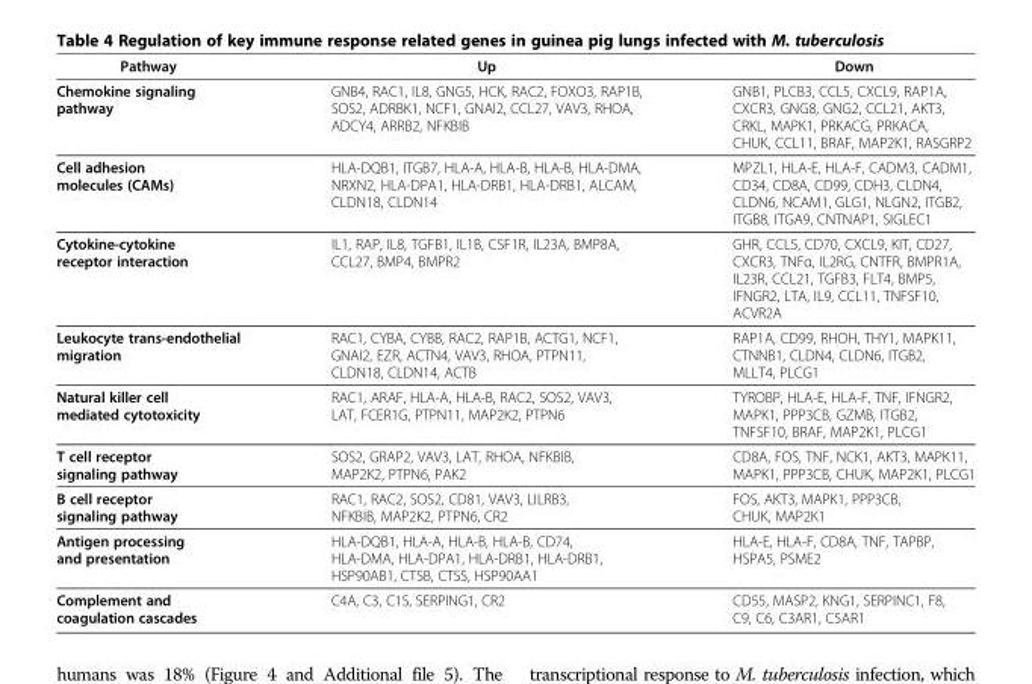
<table><thead><tr><td>Pathway</td><td>Up</td><td>Down</td></tr></thead><tbody><tr><td>Chemokine signaling pathway</td><td>GNB4, RAC1, IL8, GNG5, HCK, RAC2, FOXO3, RAP1B, SOS2, ADRBK1, NCF1, GNAI2, CCL27, VAV3, RHOA, ADCY4, ARRB2, NFKBIB</td><td>GNB1, PLCB3, CCL5, CXCL9, RAP1A, CXCR3, GNG8, GNG2, CCL21, AKT3, CRKL, MAPK1, PRKACG, PRKACA, CHUK, CCL11, BRAF, MAP2K1, RASGRP2</td></tr><tr><td>Cell adhesion molecules (CAMs)</td><td>HLA-DQB1, ITGB7, HLA-A, HLA-B, HLA-B, HLA-DMA, NRXN2, HLA-DPA1, HLA-DRB1, HLA-DRB1, ALCAM, CLDN18, CLDN14</td><td>MPZL1, HLA-E, HLA-F, CADM3, CADM1, CD34, CD8A, CD99, CDH3, CLDN4, CLDN6, NCAM1, GLG1, NLGN2, ITGB2, ITGB8, ITGA9, CNTNAP1, SIGLEC1</td></tr><tr><td>Cytokine-cytokine receptor interaction</td><td>IL1, RAP, IL8, TGFB1, IL1B, CSF1R, IL23A, BMP8A, CCL27, BMP4, BMPR2</td><td>GHR, CCL5, CD70, CXCL9, KIT, CD27, CXCR3, TNFα, IL2RG, CNTFR, BMPR1A, IL23R, CCL21, TGFB3, FLT4, BMP5, IFNGR2, LTA, IL9, CCL11, TNFSF10, ACVR2A</td></tr><tr><td>Leukocyte trans-endothelial migration</td><td>RAC1, CYBA, CYBB, RAC2, RAP1B, ACTG1, NCF1, GNAI2, EZR, ACTN4, VAV3, RHOA, PTPN11, CLDN18, CLDN14, ACTB</td><td>RAP1A, CD99, RHOH, THY1, MAPK11, CTNNB1, CLDN4, CLDN6, ITGB2, MLLT4, PLCG1</td></tr><tr><td>Natural killer cell mediated cytotoxicity</td><td>RAC1, ARAF, HLA-A, HLA-B, RAC2, SOS2, VAV3, LAT, FCER1G, PTPN11, MAP2K2, PTPN6</td><td>TYROBP, HLA-E, HLA-F, TNF, IFNGR2, MAPK1, PPP3CB, GZMB, ITGB2, TNFSF10, BRAF, MAP2K1, PLCG1</td></tr><tr><td>T cell receptor signaling pathway</td><td>SOS2, GRAP2, VAV3, LAT, RHOA, NFKBIB, MAP2K2, PTPN6, PAK2</td><td>CD8A, FOS, TNF, NCK1, AKT3, MAPK11, MAPK1, PPP3CB, CHUK, MAP2K1, PLCG1</td></tr><tr><td>B cell receptor signaling pathway</td><td>RAC1, RAC2, SOS2, CD81, VAV3, LILRB3, NFKBIB, MAP2K2, PTPN6, CR2</td><td>FOS, AKT3, MAPK1, PPP3CB, CHUK, MAP2K1</td></tr><tr><td>Antigen processing and presentation</td><td>HLA-DQB1, HLA-A, HLA-B, HLA-B, CD74, HLA-DMA, HLA-DPA1, HLA-DRB1, HLA-DRB1, HSP90AB1, CTSB, CTSS, HSP90AA1</td><td>HLA-E, HLA-F, CD8A, TNF, TAPBP, HSPA5, PSME2</td></tr><tr><td>Complement and coagulation cascades</td><td>C4A, C3, C1S, SERPING1, CR2</td><td>CD55, MASP2, KNG1, SERPINC1, F8, C9, C6, C3AR1, C5AR1</td></tr></tbody></table>